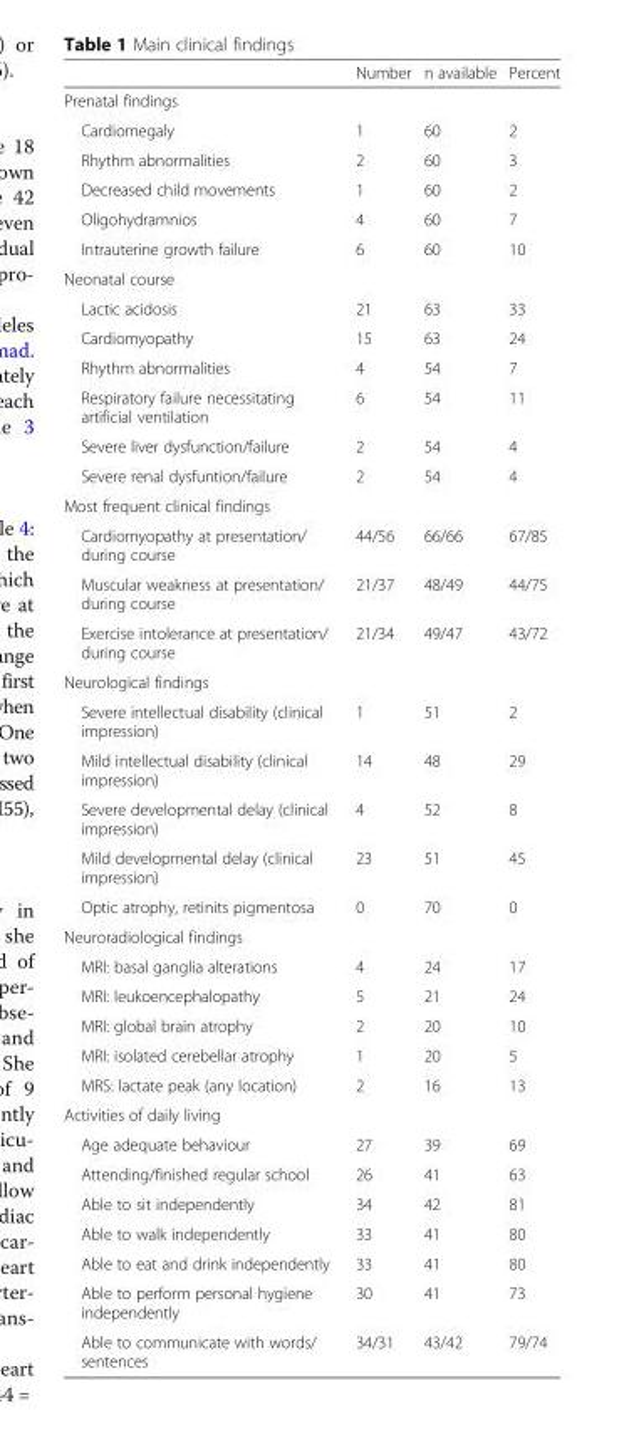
<table><thead><tr><td></td><td>Number</td><td>n available</td><td>Percent</td></tr></thead><tbody><tr><td colspan="4">Prenatal findings</td></tr><tr><td>Cardiomegaly</td><td>1</td><td>60</td><td>2</td></tr><tr><td>Rhythm abnormalities</td><td>2</td><td>60</td><td>3</td></tr><tr><td>Decreased child movements</td><td>1</td><td>60</td><td>2</td></tr><tr><td>Oligohydramnios</td><td>4</td><td>60</td><td>7</td></tr><tr><td>Intrauterine growth failure</td><td>6</td><td>60</td><td>10</td></tr><tr><td colspan="4">Neonatal course</td></tr><tr><td>Lactic acidosis</td><td>21</td><td>63</td><td>33</td></tr><tr><td>Cardiomyopathy</td><td>15</td><td>63</td><td>24</td></tr><tr><td>Rhythm abnormalities</td><td>4</td><td>54</td><td>7</td></tr><tr><td>Respiratory failure necessitating artificial ventilation</td><td>6</td><td>54</td><td>11</td></tr><tr><td>Severe liver dysfunction/failure</td><td>2</td><td>54</td><td>4</td></tr><tr><td>Severe renal dysfuntion/failure</td><td>2</td><td>54</td><td>4</td></tr><tr><td colspan="4">Most frequent clinical findings</td></tr><tr><td>Cardiomyopathy at presentation/ during course</td><td>44/56</td><td>66/66</td><td>67/85</td></tr><tr><td>Muscular weakness at presentation/ during course</td><td>21/37</td><td>48/49</td><td>44/75</td></tr><tr><td>Exercise intolerance at presentation/ during course</td><td>21/34</td><td>49/47</td><td>43/72</td></tr><tr><td colspan="4">Neurological findings</td></tr><tr><td>Severe intellectual disability (clinical impression)</td><td>1</td><td>51</td><td>2</td></tr><tr><td>Mild intellectual disability (clinical impression)</td><td>14</td><td>48</td><td>29</td></tr><tr><td>Severe developmental delay (clinical impression)</td><td>4</td><td>52</td><td>8</td></tr><tr><td>Mild developmental delay (clinical impression)</td><td>23</td><td>51</td><td>45</td></tr><tr><td>Optic atrophy, retinits pigmentosa</td><td>0</td><td>70</td><td>0</td></tr><tr><td colspan="4">Neuroradiological findings</td></tr><tr><td>MRI: basal ganglia alterations</td><td>4</td><td>24</td><td>17</td></tr><tr><td>MRI: leukoencephalopathy</td><td>5</td><td>21</td><td>24</td></tr><tr><td>MRI: global brain atrophy</td><td>2</td><td>20</td><td>10</td></tr><tr><td>MRI: isolated cerebellar atrophy</td><td>1</td><td>20</td><td>5</td></tr><tr><td>MRS: lactate peak (any location)</td><td>2</td><td>16</td><td>13</td></tr><tr><td colspan="4">Activities of daily living</td></tr><tr><td>Age adequate behaviour</td><td>27</td><td>39</td><td>69</td></tr><tr><td>Attending/finished regular school</td><td>26</td><td>41</td><td>63</td></tr><tr><td>Able to sit independently</td><td>34</td><td>42</td><td>81</td></tr><tr><td>Able to walk independently</td><td>33</td><td>41</td><td>80</td></tr><tr><td>Able to eat and drink independently</td><td>33</td><td>41</td><td>80</td></tr><tr><td>Able to perform personal hygiene independently</td><td>30</td><td>41</td><td>73</td></tr><tr><td>Able to communicate with words/ sentences</td><td>34/31</td><td>43/42</td><td>79/74</td></tr></tbody></table>